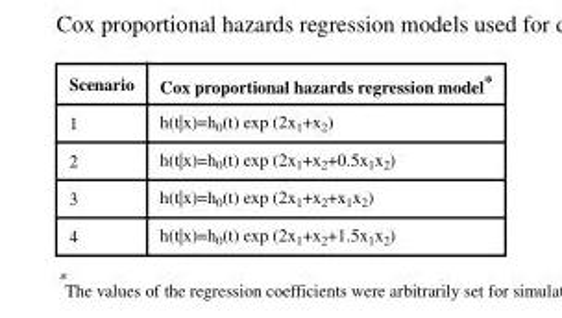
<table><thead><tr><td>Scenario</td><td>Cox proportional hazards regression model*</td></tr></thead><tbody><tr><td>1</td><td>h(t|x)=h<sub>0</sub>(t) exp (2x<sub>1</sub>+x<sub>2</sub>)</td></tr><tr><td>2</td><td>h(t|x)=h<sub>0</sub>(t) exp (2x<sub>1</sub>+x<sub>2</sub>+0.5x<sub>1</sub>x<sub>2</sub>)</td></tr><tr><td>3</td><td>h(t|x)=h<sub>0</sub>(t) exp (2x<sub>1</sub>+x<sub>2</sub>+x<sub>1</sub>x<sub>2</sub>)</td></tr><tr><td>4</td><td>h(t|x)=h<sub>0</sub>(t) exp (2x<sub>1</sub>+x<sub>2</sub>+1.5x<sub>1</sub>x<sub>2</sub>)</td></tr></tbody></table>